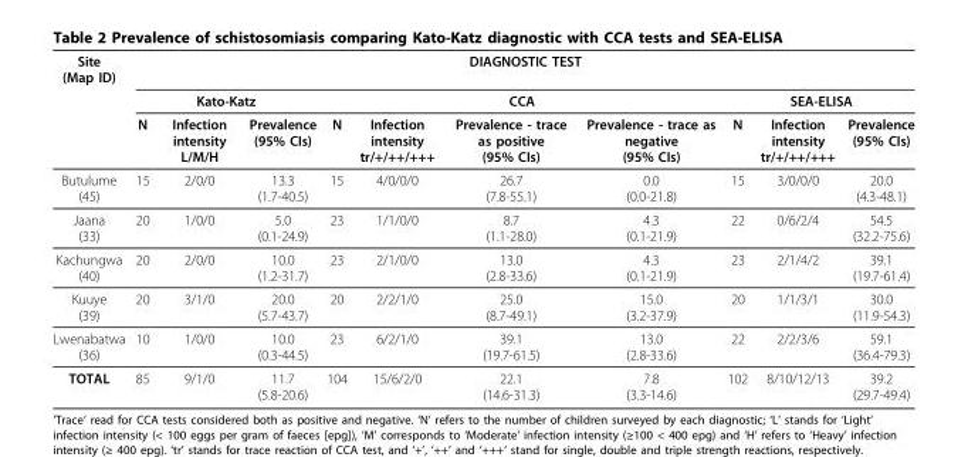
<table><thead><tr><td rowspan="3">Site (Map ID)</td><td colspan="10">DIAGNOSTIC TEST</td></tr><tr><td colspan="3">Kato-Katz</td><td colspan="4">CCA</td><td colspan="3">SEA-ELISA</td></tr><tr><td>N</td><td>Infection intensity L/M/H</td><td>Prevalence (95% CIs)</td><td>N</td><td>Infection intensity tr/+/++/+++</td><td>Prevalence - trace as positive (95% CIs)</td><td>Prevalence - trace as negative (95% CIs)</td><td>N</td><td>Infection intensity tr/+/++/+++</td><td>Prevalence (95% CIs)</td></tr></thead><tbody><tr><td>Butulume (45)</td><td>15</td><td>2/0/0</td><td>13.3 (1.7-40.5)</td><td>15</td><td>4/0/0/0</td><td>26.7 (7.8-55.1)</td><td>0.0 (0.0-21.8)</td><td>15</td><td>3/0/0/0</td><td>20.0 (4.3-48.1)</td></tr><tr><td>Jaana (33)</td><td>20</td><td>1/0/0</td><td>5.0 (0.1-24.9)</td><td>23</td><td>1/1/0/0</td><td>8.7 (1.1-28.0)</td><td>4.3 (0.1-21.9)</td><td>22</td><td>0/6/2/4</td><td>54.5 (32.2-75.6)</td></tr><tr><td>Kachungwa (40)</td><td>20</td><td>2/0/0</td><td>10.0 (1.2-31.7)</td><td>23</td><td>2/1/0/0</td><td>13.0 (2.8-33.6)</td><td>4.3 (0.1-21.9)</td><td>23</td><td>2/1/4/2</td><td>39.1 (19.7-61.4)</td></tr><tr><td>Kuuye (39)</td><td>20</td><td>3/1/0</td><td>20.0 (5.7-43.7)</td><td>20</td><td>2/2/1/0</td><td>25.0 (8.7-49.1)</td><td>15.0 (3.2-37.9)</td><td>20</td><td>1/1/3/1</td><td>30.0 (11.9-54.3)</td></tr><tr><td>Lwenabatwa (36)</td><td>10</td><td>1/0/0</td><td>10.0 (0.3-44.5)</td><td>23</td><td>6/2/1/0</td><td>39.1 (19.7-61.5)</td><td>13.0 (2.8-33.6)</td><td>22</td><td>2/2/3/6</td><td>59.1 (36.4-79.3)</td></tr><tr><td>TOTAL</td><td>85</td><td>9/1/0</td><td>11.7 (5.8-20.6)</td><td>104</td><td>15/6/2/0</td><td>22.1 (14.6-31.3)</td><td>7.8 (3.3-14.6)</td><td>102</td><td>8/10/12/13</td><td>39.2 (29.7-49.4)</td></tr></tbody></table>